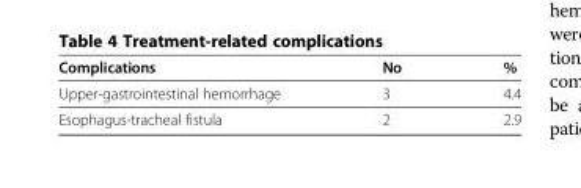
<table><thead><tr><td>Complications</td><td>No</td><td>%</td></tr></thead><tbody><tr><td>Upper-gastrointestinal hemorrhage</td><td>3</td><td>4.4</td></tr><tr><td>Esophagus-tracheal fistula</td><td>2</td><td>2.9</td></tr></tbody></table>